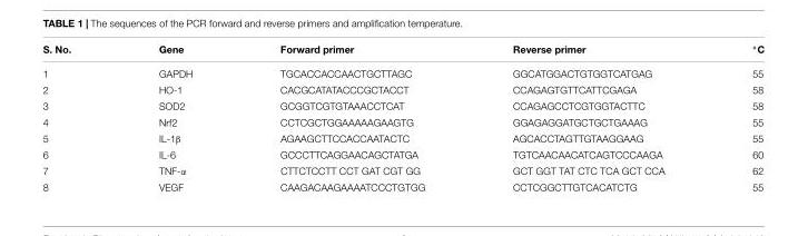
<table><thead><tr><td>S. No.</td><td>Gene</td><td>Forward primer</td><td>Reverse primer</td><td>◦C</td></tr></thead><tbody><tr><td>1</td><td>GAPDH</td><td>TGCACCACCAACTGCTTAGC</td><td>GGCATGGACTGTGGTCATGAG</td><td>55</td></tr><tr><td>2</td><td>HO-1</td><td>CACGCATATACCCGCTACCT</td><td>CCAGAGTGTTCATTCGAGA</td><td>58</td></tr><tr><td>3</td><td>SOD2</td><td>GCGGTCGTGTAAACCTCAT</td><td>CCAGAGCCTCGTGGTACTTC</td><td>58</td></tr><tr><td>4</td><td>Nrf2</td><td>CCTCGCTGGAAAAAGAAGTG</td><td>GGAGAGGATGCTGCTGAAAG</td><td>55</td></tr><tr><td>5</td><td>IL-1β</td><td>AGAAGCTTCCACCAATACTC</td><td>AGCACCTAGTTGTAAGGAAG</td><td>55</td></tr><tr><td>6</td><td>IL-6</td><td>GCCCTTCAGGAACAGCTATGA</td><td>TGTCAACAACATCAGTCCCAAGA</td><td>60</td></tr><tr><td>7</td><td>TNF-α</td><td>CTTCTCCTT CCT GAT CGT GG</td><td>GCT GGT TAT CTC TCA GCT CCA</td><td>62</td></tr><tr><td>8</td><td>VEGF</td><td>CAAGACAAGAAAATCCCTGTGG</td><td>CCTCGGCTTGTCACATCTG</td><td>55</td></tr></tbody></table>